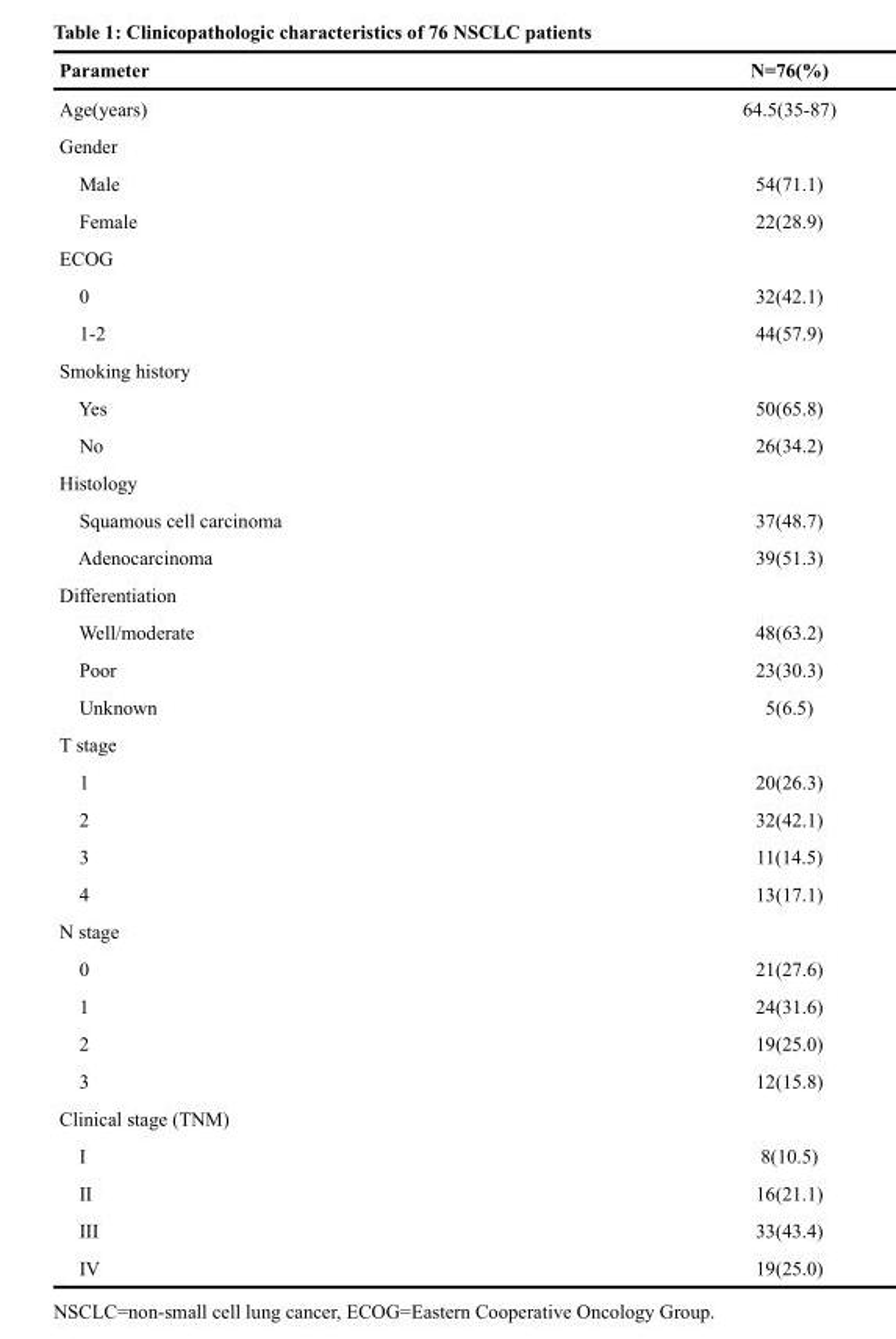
<table><thead><tr><td>Parameter</td><td>N=76(%)</td></tr></thead><tbody><tr><td>Age(years)</td><td>64.5(35-87)</td></tr><tr><td colspan="2">Gender</td></tr><tr><td>Male</td><td>54(71.1)</td></tr><tr><td>Female</td><td>22(28.9)</td></tr><tr><td colspan="2">ECOG</td></tr><tr><td>0</td><td>32(42.1)</td></tr><tr><td>1-2</td><td>44(57.9)</td></tr><tr><td colspan="2">Smoking history</td></tr><tr><td>Yes</td><td>50(65.8)</td></tr><tr><td>No</td><td>26(34.2)</td></tr><tr><td colspan="2">Histology</td></tr><tr><td>Squamous cell carcinoma</td><td>37(48.7)</td></tr><tr><td>Adenocarcinoma</td><td>39(51.3)</td></tr><tr><td colspan="2">Differentiation</td></tr><tr><td>Well/moderate</td><td>48(63.2)</td></tr><tr><td>Poor</td><td>23(30.3)</td></tr><tr><td>Unknown</td><td>5(6.5)</td></tr><tr><td colspan="2">T stage</td></tr><tr><td>1</td><td>20(26.3)</td></tr><tr><td>2</td><td>32(42.1)</td></tr><tr><td>3</td><td>11(14.5)</td></tr><tr><td>4</td><td>13(17.1)</td></tr><tr><td colspan="2">N stage</td></tr><tr><td>0</td><td>21(27.6)</td></tr><tr><td>1</td><td>24(31.6)</td></tr><tr><td>2</td><td>19(25.0)</td></tr><tr><td>3</td><td>12(15.8)</td></tr><tr><td colspan="2">Clinical stage (TNM)</td></tr><tr><td>I</td><td>8(10.5)</td></tr><tr><td>II</td><td>16(21.1)</td></tr><tr><td>III</td><td>33(43.4)</td></tr><tr><td>IV</td><td>19(25.0)</td></tr></tbody></table>